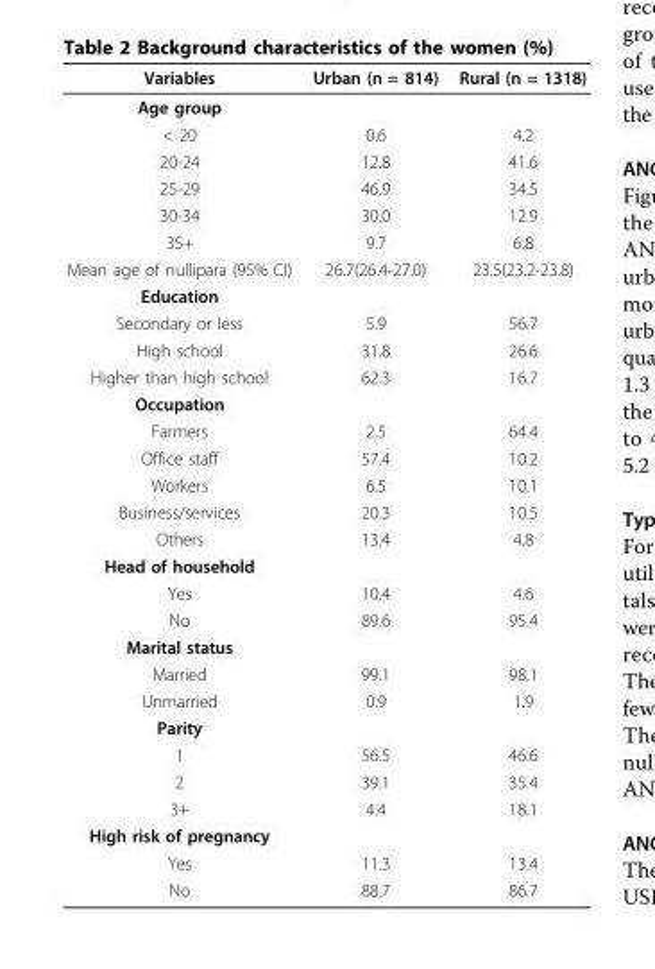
<table><thead><tr><td>Variables</td><td>Urban (n = 814)</td><td>Rural (n = 1318)</td></tr></thead><tbody><tr><td colspan="3">Age group</td></tr><tr><td>&lt; 20</td><td>0.6</td><td>4.2</td></tr><tr><td>20-24</td><td>12.8</td><td>41.6</td></tr><tr><td>25-29</td><td>46.9</td><td>34.5</td></tr><tr><td>30-34</td><td>30.0</td><td>12.9</td></tr><tr><td>35+</td><td>9.7</td><td>6.8</td></tr><tr><td>Mean age of nullipara (95% CI)</td><td>26.7(26.4-27.0)</td><td>23.5(23.2-23.8)</td></tr><tr><td colspan="3">Education</td></tr><tr><td>Secondary or less</td><td>5.9</td><td>56.7</td></tr><tr><td>High school</td><td>31.8</td><td>26.6</td></tr><tr><td>Higher than high school</td><td>62.3</td><td>16.7</td></tr><tr><td colspan="3">Occupation</td></tr><tr><td>Farmers</td><td>2.5</td><td>64.4</td></tr><tr><td>Office staff</td><td>57.4</td><td>10.2</td></tr><tr><td>Workers</td><td>6.5</td><td>10.1</td></tr><tr><td>Business/services</td><td>20.3</td><td>10.5</td></tr><tr><td>Others</td><td>13.4</td><td>4.8</td></tr><tr><td colspan="3">Head of household</td></tr><tr><td>Yes</td><td>10.4</td><td>4.6</td></tr><tr><td>No</td><td>89.6</td><td>95.4</td></tr><tr><td colspan="3">Marital status</td></tr><tr><td>Married</td><td>99.1</td><td>98.1</td></tr><tr><td>Unmarried</td><td>0.9</td><td>1.9</td></tr><tr><td colspan="3">Parity</td></tr><tr><td>1</td><td>56.5</td><td>46.6</td></tr><tr><td>2</td><td>39.1</td><td>35.4</td></tr><tr><td>3+</td><td>4.4</td><td>18.1</td></tr><tr><td colspan="3">High risk of pregnancy</td></tr><tr><td>Yes</td><td>11.3</td><td>13.4</td></tr><tr><td>No</td><td>88.7</td><td>86.7</td></tr></tbody></table>